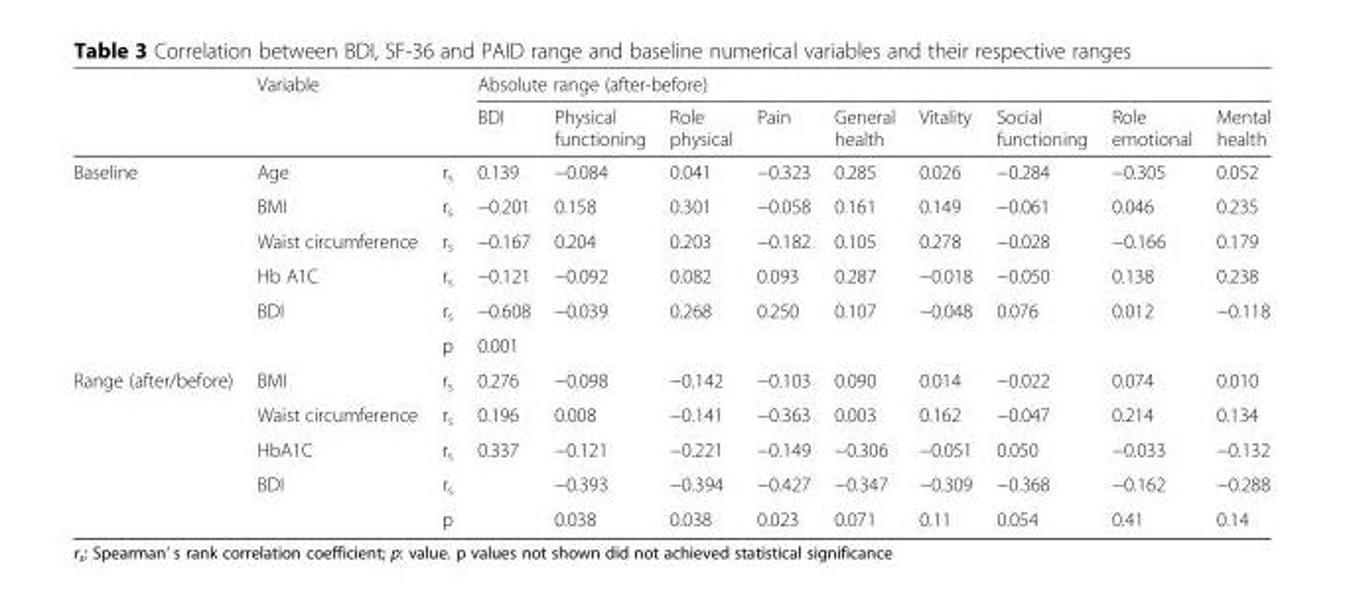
<table><thead><tr><td rowspan="2"></td><td rowspan="2">Variable</td><td rowspan="2"></td><td colspan="9">Absolute range (after-before)</td></tr><tr><td>BDI</td><td>Physical functioning</td><td>Role physical</td><td>Pain</td><td>General health</td><td>Vitality</td><td>Social functioning</td><td>Role emotional</td><td>Mental health</td></tr></thead><tbody><tr><td rowspan="6">Baseline</td><td>Age</td><td>r<sub>s</sub></td><td>0.139</td><td>−0.084</td><td>0.041</td><td>−0.323</td><td>0.285</td><td>0.026</td><td>−0.284</td><td>−0.305</td><td>0.052</td></tr><tr><td>BMI</td><td>r<sub>s</sub></td><td>−0.201</td><td>0.158</td><td>0.301</td><td>−0.058</td><td>0.161</td><td>0.149</td><td>−0.061</td><td>0.046</td><td>0.235</td></tr><tr><td>Waist circumference</td><td>r<sub>s</sub></td><td>−0.167</td><td>0.204</td><td>0.203</td><td>−0.182</td><td>0.105</td><td>0.278</td><td>−0.028</td><td>−0.166</td><td>0.179</td></tr><tr><td>Hb A1C</td><td>r<sub>s</sub></td><td>−0.121</td><td>−0.092</td><td>0.082</td><td>0.093</td><td>0.287</td><td>−0.018</td><td>−0.050</td><td>0.138</td><td>0.238</td></tr><tr><td rowspan="2">BDI</td><td>r<sub>s</sub></td><td>−0.608</td><td>−0.039</td><td>0.268</td><td>0.250</td><td>0.107</td><td>−0.048</td><td>0.076</td><td>0.012</td><td>−0.118</td></tr><tr><td>p</td><td>0.001</td><td></td><td></td><td></td><td></td><td></td><td></td><td></td><td></td></tr><tr><td rowspan="5">Range (after/before)</td><td>BMI</td><td>r<sub>s</sub></td><td>0.276</td><td>−0.098</td><td>−0.142</td><td>−0.103</td><td>0.090</td><td>0.014</td><td>−0.022</td><td>0.074</td><td>0.010</td></tr><tr><td>Waist circumference</td><td>r<sub>s</sub></td><td>0.196</td><td>0.008</td><td>−0.141</td><td>−0.363</td><td>0.003</td><td>0.162</td><td>−0.047</td><td>0.214</td><td>0.134</td></tr><tr><td>HbA1C</td><td>r<sub>s</sub></td><td>0.337</td><td>−0.121</td><td>−0.221</td><td>−0.149</td><td>−0.306</td><td>−0.051</td><td>0.050</td><td>−0.033</td><td>−0.132</td></tr><tr><td rowspan="2">BDI</td><td>r<sub>s</sub></td><td></td><td>−0.393</td><td>−0.394</td><td>−0.427</td><td>−0.347</td><td>−0.309</td><td>−0.368</td><td>−0.162</td><td>−0.288</td></tr><tr><td>p</td><td></td><td>0.038</td><td>0.038</td><td>0.023</td><td>0.071</td><td>0.11</td><td>0.054</td><td>0.41</td><td>0.14</td></tr></tbody></table>